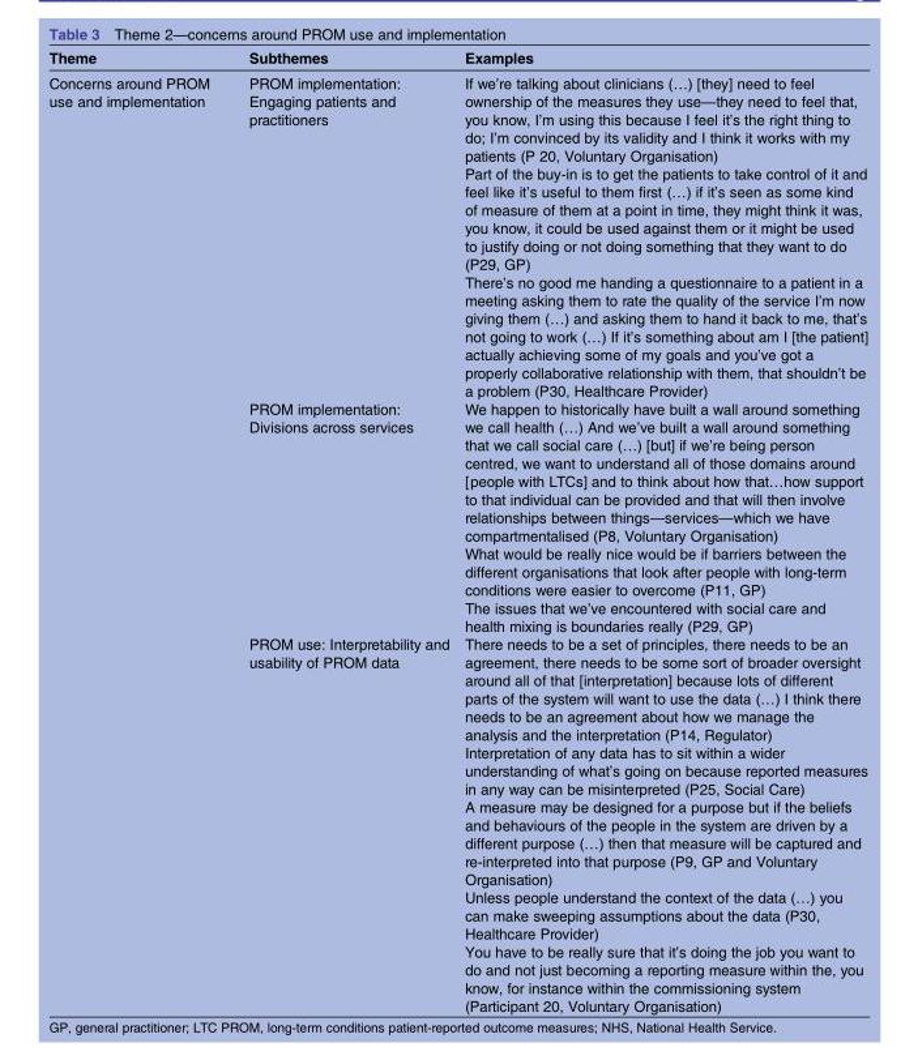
<table><thead><tr><td>Theme</td><td>Subthemes</td><td>Examples</td></tr></thead><tbody><tr><td rowspan="11">Concerns around PROM use and implementation</td><td rowspan="3">PROM implementation: Engaging patients and practitioners</td><td>If we’re talking about clinicians (…) [they] need to feel ownership of the measures they use—they need to feel that, you know, I’m using this because I feel it’s the right thing to do; I’m convinced by its validity and I think it works with my patients (P 20, Voluntary Organisation)</td></tr><tr><td>Part of the buy-in is to get the patients to take control of it and feel like it’s useful to them first (…) if it’s seen as some kind of measure of them at a point in time, they might think it was, you know, it could be used against them or it might be used to justify doing or not doing something that they want to do (P29, GP)</td></tr><tr><td>There’s no good me handing a questionnaire to a patient in a meeting asking them to rate the quality of the service I’m now giving them (…) and asking them to hand it back to me, that’s not going to work (…) If it’s something about am I [the patient] actually achieving some of my goals and you’ve got a properly collaborative relationship with them, that shouldn’t be a problem (P30, Healthcare Provider)</td></tr><tr><td rowspan="3">PROM implementation: Divisions across services</td><td>We happen to historically have built a wall around something we call health (…) And we’ve built a wall around something that we call social care (…) [but] if we’re being person centred, we want to understand all of those domains around [people with LTCs] and to think about how that…how support to that individual can be provided and that will then involve relationships between things—services—which we have compartmentalised (P8, Voluntary Organisation)</td></tr><tr><td>What would be really nice would be if barriers between the different organisations that look after people with long-term conditions were easier to overcome (P11, GP)</td></tr><tr><td>The issues that we’ve encountered with social care and health mixing is boundaries really (P29, GP)</td></tr><tr><td rowspan="5">PROM use: Interpretability and usability of PROM data</td><td>There needs to be a set of principles, there needs to be an agreement, there needs to be some sort of broader oversight around all of that [interpretation] because lots of different parts of the system will want to use the data (…) I think there needs to be an agreement about how we manage the analysis and the interpretation (P14, Regulator)</td></tr><tr><td>Interpretation of any data has to sit within a wider understanding of what’s going on because reported measures in any way can be misinterpreted (P25, Social Care)</td></tr><tr><td>A measure may be designed for a purpose but if the beliefs and behaviours of the people in the system are driven by a different purpose (…) then that measure will be captured and re-interpreted into that purpose (P9, GP and Voluntary Organisation)</td></tr><tr><td>Unless people understand the context of the data (…) you can make sweeping assumptions about the data (P30, Healthcare Provider)</td></tr><tr><td>You have to be really sure that it’s doing the job you want to do and not just becoming a reporting measure within the, you know, for instance within the commissioning system (Participant 20, Voluntary Organisation)</td></tr></tbody></table>